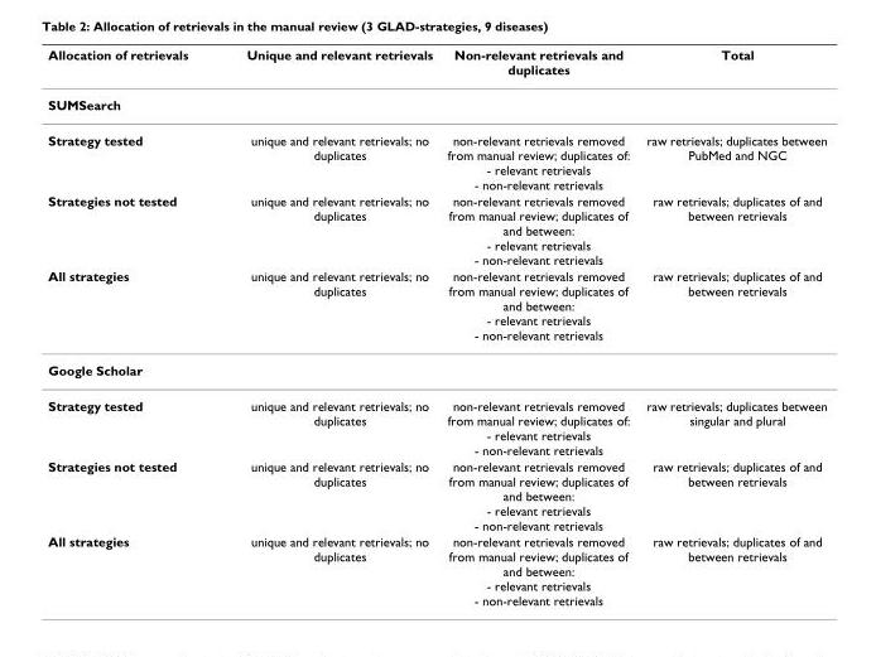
<table><thead><tr><td>Allocation of retrievals</td><td>Unique and relevant retrievals</td><td>Non-relevant retrievals and duplicates</td><td>Total</td></tr></thead><tbody><tr><td colspan="4">SUMSearch</td></tr><tr><td>Strategy tested</td><td>unique and relevant retrievals; no duplicates</td><td>non-relevant retrievals removed from manual review; duplicates of: - relevant retrievals - non-relevant retrievals</td><td>raw retrievals; duplicates between PubMed and NGC</td></tr><tr><td>Strategies not tested</td><td>unique and relevant retrievals; no duplicates</td><td>non-relevant retrievals removed from manual review; duplicates of and between: - relevant retrievals - non-relevant retrievals</td><td>raw retrievals; duplicates of and between retrievals</td></tr><tr><td>All strategies</td><td>unique and relevant retrievals; no duplicates</td><td>non-relevant retrievals removed from manual review; duplicates of and between: - relevant retrievals - non-relevant retrievals</td><td>raw retrievals; duplicates of and between retrievals</td></tr><tr><td colspan="4">Google Scholar</td></tr><tr><td>Strategy tested</td><td>unique and relevant retrievals; no duplicates</td><td>non-relevant retrievals removed from manual review; duplicates of: - relevant retrievals - non-relevant retrievals</td><td>raw retrievals; duplicates between singular and plural</td></tr><tr><td>Strategies not tested</td><td>unique and relevant retrievals; no duplicates</td><td>non-relevant retrievals removed from manual review; duplicates of and between: - relevant retrievals - non-relevant retrievals</td><td>raw retrievals; duplicates of and between retrievals</td></tr><tr><td>All strategies</td><td>unique and relevant retrievals; no duplicates</td><td>non-relevant retrievals removed from manual review; duplicates of and between: - relevant retrievals - non-relevant retrievals</td><td>raw retrievals; duplicates of and between retrievals</td></tr></tbody></table>